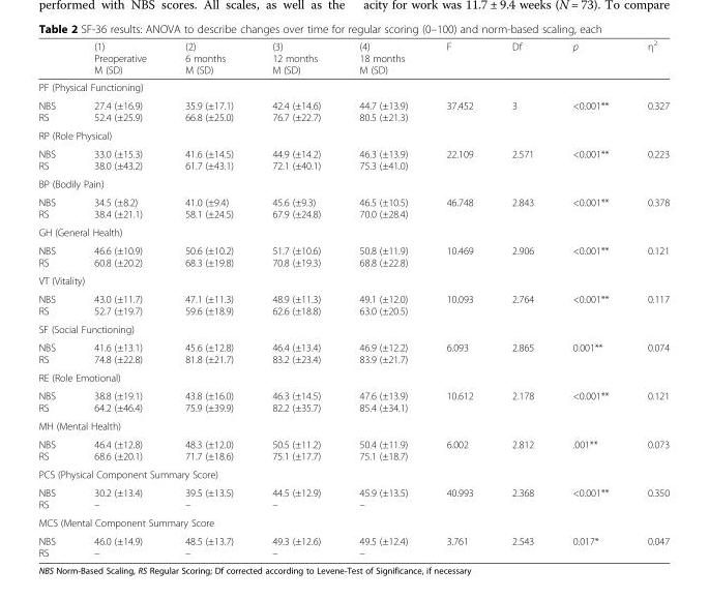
<table><thead><tr><td></td><td>(1) Preoperative M (SD)</td><td>(2) 6 months M (SD)</td><td>(3) 12 months M (SD)</td><td>(4) 18 months M (SD)</td><td>F</td><td>Df</td><td>p</td><td>η<sup>2</sup></td></tr></thead><tbody><tr><td colspan="9">PF (Physical Functioning)</td></tr><tr><td>NBS RS</td><td>27.4 (±16.9) 52.4 (±25.9)</td><td>35.9 (±17.1) 66.8 (±25.0)</td><td>42.4 (±14.6) 76.7 (±22.7)</td><td>44.7 (±13.9) 80.5 (±21.3)</td><td>37.452</td><td>3</td><td>&lt;0.001**</td><td>0.327</td></tr><tr><td colspan="9">RP (Role Physical)</td></tr><tr><td>NBS RS</td><td>33.0 (±15.3) 38.0 (±43.2)</td><td>41.6 (±14.5) 61.7 (±43.1)</td><td>44.9 (±14.2) 72.1 (±40.1)</td><td>46.3 (±13.9) 75.3 (±41.0)</td><td>22.109</td><td>2.571</td><td>&lt;0.001**</td><td>0.223</td></tr><tr><td colspan="9">BP (Bodily Pain)</td></tr><tr><td>NBS RS</td><td>34.5 (±8.2) 38.4 (±21.1)</td><td>41.0 (±9.4) 58.1 (±24.5)</td><td>45.6 (±9.3) 67.9 (±24.8)</td><td>46.5 (±10.5) 70.0 (±28.4)</td><td>46.748</td><td>2.843</td><td>&lt;0.001**</td><td>0.378</td></tr><tr><td colspan="9">GH (General Health)</td></tr><tr><td>NBS RS</td><td>46.6 (±10.9) 60.8 (±20.2)</td><td>50.6 (±10.2) 68.3 (±19.8)</td><td>51.7 (±10.6) 70.8 (±19.3)</td><td>50.8 (±11.9) 68.8 (±22.8)</td><td>10.469</td><td>2.906</td><td>&lt;0.001**</td><td>0.121</td></tr><tr><td colspan="9">VT (Vitality)</td></tr><tr><td>NBS RS</td><td>43.0 (±11.7) 52.7 (±19.7)</td><td>47.1 (±11.3) 59.6 (±18.9)</td><td>48.9 (±11.3) 62.6 (±18.8)</td><td>49.1 (±12.0) 63.0 (±20.5)</td><td>10.093</td><td>2.764</td><td>&lt;0.001**</td><td>0.117</td></tr><tr><td colspan="9">SF (Social Functioning)</td></tr><tr><td>NBS RS</td><td>41.6 (±13.1) 74.8 (±22.8)</td><td>45.6 (±12.8) 81.8 (±21.7)</td><td>46.4 (±13.4) 83.2 (±23.4)</td><td>46.9 (±12.2) 83.9 (±21.7)</td><td>6.093</td><td>2.865</td><td>0.001**</td><td>0.074</td></tr><tr><td colspan="9">RE (Role Emotional)</td></tr><tr><td>NBS RS</td><td>38.8 (±19.1) 64.2 (±46.4)</td><td>43.8 (±16.0) 75.9 (±39.9)</td><td>46.3 (±14.5) 82.2 (±35.7)</td><td>47.6 (±13.9) 85.4 (±34.1)</td><td>10.612</td><td>2.178</td><td>&lt;0.001**</td><td>0.121</td></tr><tr><td colspan="9">MH (Mental Health)</td></tr><tr><td>NBS RS</td><td>46.4 (±12.8) 68.6 (±20.1)</td><td>48.3 (±12.0) 71.7 (±18.6)</td><td>50.5 (±11.2) 75.1 (±17.7)</td><td>50.4 (±11.9) 75.1 (±18.7)</td><td>6.002</td><td>2.812</td><td>.001**</td><td>0.073</td></tr><tr><td colspan="9">PCS (Physical Component Summary Score)</td></tr><tr><td>NBS RS</td><td>30.2 (±13.4) –</td><td>39.5 (±13.5) –</td><td>44.5 (±12.9) –</td><td>45.9 (±13.5) –</td><td>40.993</td><td>2.368</td><td>&lt;0.001**</td><td>0.350</td></tr><tr><td colspan="9">MCS (Mental Component Summary Score</td></tr><tr><td>NBS RS</td><td>46.0 (±14.9) –</td><td>48.5 (±13.7) –</td><td>49.3 (±12.6) –</td><td>49.5 (±12.4) –</td><td>3.761</td><td>2.543</td><td>0.017*</td><td>0.047</td></tr></tbody></table>